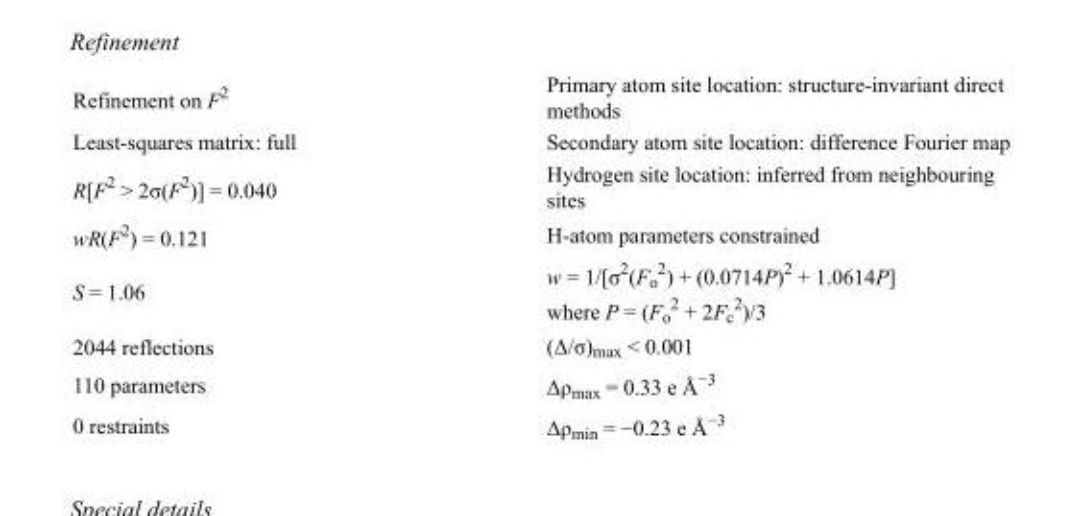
<table><tbody><tr><td>Refinement on F<sup>2</sup></td><td>Primary atom site location: structure-invariant direct methods</td></tr><tr><td>Least-squares matrix: full</td><td>Secondary atom site location: difference Fourier map</td></tr><tr><td>R[F<sup>2</sup> &gt; 2σ(F<sup>2</sup>)] = 0.040</td><td>Hydrogen site location: inferred from neighbouring sites</td></tr><tr><td>wR(F<sup>2</sup>) = 0.121</td><td>H-atom parameters constrained</td></tr><tr><td>S = 1.06</td><td>w = 1/[σ<sup>2</sup>(F<sub>o</sub> <sup>2</sup>) + (0.0714P)<sup>2</sup> + 1.0614P] where P = (F<sub>o</sub> <sup>2</sup> + 2F<sub>c</sub> <sup>2</sup>)/3</td></tr><tr><td>2044 reflections</td><td>(Δ/σ)<sub>max</sub> &lt; 0.001</td></tr><tr><td>110 parameters</td><td>Δρ<sub>max</sub> = 0.33 e Å<sup>−3</sup></td></tr><tr><td>0 restraints</td><td>Δρ<sub>min</sub> = −0.23 e Å<sup>−3</sup></td></tr></tbody></table>